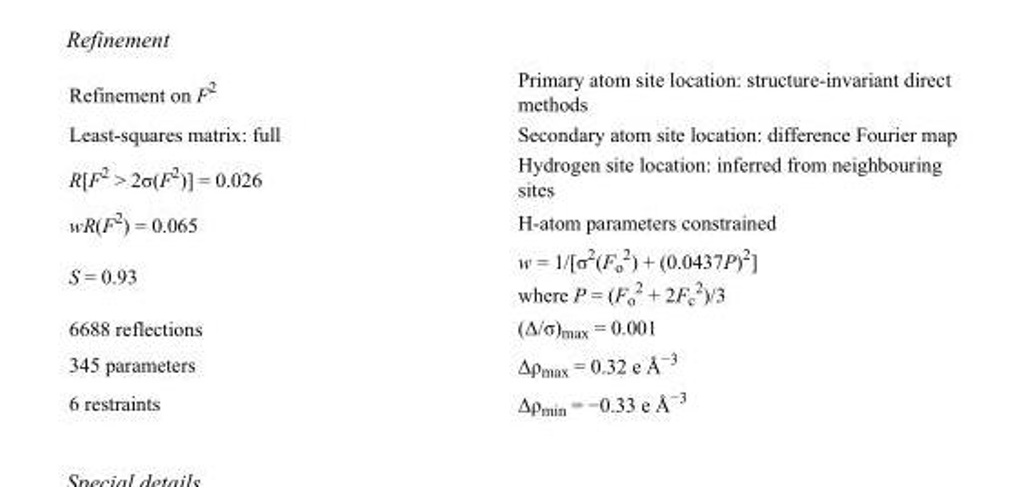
<table><tbody><tr><td>Refinement on F<sup>2</sup></td><td>Primary atom site location: structure-invariant direct methods</td></tr><tr><td>Least-squares matrix: full</td><td>Secondary atom site location: difference Fourier map</td></tr><tr><td>R[F<sup>2</sup> &gt; 2σ(F<sup>2</sup>)] = 0.026</td><td>Hydrogen site location: inferred from neighbouring sites</td></tr><tr><td>wR(F<sup>2</sup>) = 0.065</td><td>H-atom parameters constrained</td></tr><tr><td>S = 0.93</td><td>w = 1/[σ<sup>2</sup>(F<sub>o</sub> <sup>2</sup>) + (0.0437P)<sup>2</sup>] where P = (F<sub>o</sub> <sup>2</sup> + 2F<sub>c</sub> <sup>2</sup>)/3</td></tr><tr><td>6688 reflections</td><td>(Δ/σ)<sub>max</sub> = 0.001</td></tr><tr><td>345 parameters</td><td>Δρ<sub>max</sub> = 0.32 e Å<sup>−3</sup></td></tr><tr><td>6 restraints</td><td>Δρ<sub>min</sub> = −0.33 e Å<sup>−3</sup></td></tr></tbody></table>